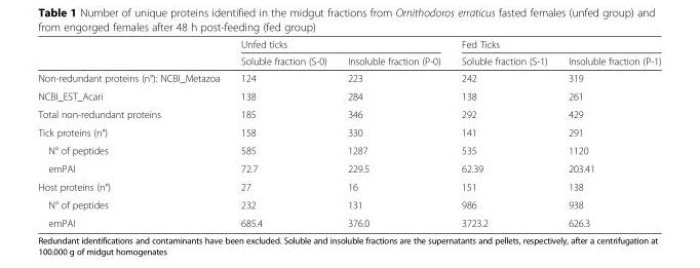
<table><thead><tr><td rowspan="2"></td><td colspan="2">Unfed ticks</td><td colspan="2">Fed Ticks</td></tr><tr><td>Soluble fraction (S-0)</td><td>Insoluble fraction (P-0)</td><td>Soluble fraction (S-1)</td><td>Insoluble fraction (P-1)</td></tr></thead><tbody><tr><td>Non-redundant proteins (n°): NCBI_Metazoa</td><td>124</td><td>223</td><td>242</td><td>319</td></tr><tr><td>NCBI_EST_Acari</td><td>138</td><td>284</td><td>138</td><td>261</td></tr><tr><td>Total non-redundant proteins</td><td>185</td><td>346</td><td>292</td><td>429</td></tr><tr><td>Tick proteins (n°)</td><td>158</td><td>330</td><td>141</td><td>291</td></tr><tr><td>N° of peptides</td><td>585</td><td>1287</td><td>535</td><td>1120</td></tr><tr><td>emPAI</td><td>72.7</td><td>229.5</td><td>62.39</td><td>203.41</td></tr><tr><td>Host proteins (n°)</td><td>27</td><td>16</td><td>151</td><td>138</td></tr><tr><td>N° of peptides</td><td>232</td><td>131</td><td>986</td><td>938</td></tr><tr><td>emPAI</td><td>685.4</td><td>376.0</td><td>3723.2</td><td>626.3</td></tr></tbody></table>